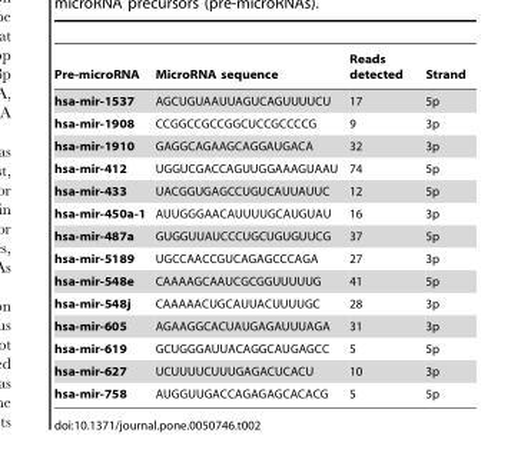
<table><thead><tr><td>Pre-microRNA</td><td>MicroRNA sequence</td><td>Reads detected</td><td>Strand</td></tr></thead><tbody><tr><td>hsa-mir-1537</td><td>AGCUGUAAUUAGUCAGUUUUCU</td><td>17</td><td>5p</td></tr><tr><td>hsa-mir-1908</td><td>CCGGCCGCCGGCUCCGCCCCG</td><td>9</td><td>3p</td></tr><tr><td>hsa-mir-1910</td><td>GAGGCAGAAGCAGGAUGACA</td><td>32</td><td>3p</td></tr><tr><td>hsa-mir-412</td><td>UGGUCGACCAGUUGGAAAGUAAU</td><td>74</td><td>5p</td></tr><tr><td>hsa-mir-433</td><td>UACGGUGAGCCUGUCAUUAUUC</td><td>12</td><td>5p</td></tr><tr><td>hsa-mir-450a-1</td><td>AUUGGGAACAUUUUGCAUGUAU</td><td>16</td><td>3p</td></tr><tr><td>hsa-mir-487a</td><td>GUGGUUAUCCCUGCUGUGUUCG</td><td>37</td><td>5p</td></tr><tr><td>hsa-mir-5189</td><td>UGCCAACCGUCAGAGCCCAGA</td><td>27</td><td>3p</td></tr><tr><td>hsa-mir-548e</td><td>CAAAAGCAAUCGCGGUUUUUG</td><td>41</td><td>5p</td></tr><tr><td>hsa-mir-548j</td><td>CAAAAACUGCAUUACUUUUGC</td><td>28</td><td>3p</td></tr><tr><td>hsa-mir-605</td><td>AGAAGGCACUAUGAGAUUUAGA</td><td>31</td><td>3p</td></tr><tr><td>hsa-mir-619</td><td>GCUGGGAUUACAGGCAUGAGCC</td><td>5</td><td>5p</td></tr><tr><td>hsa-mir-627</td><td>UCUUUUCUUUGAGACUCACU</td><td>10</td><td>3p</td></tr><tr><td>hsa-mir-758</td><td>AUGGUUGACCAGAGAGCACACG</td><td>5</td><td>5p</td></tr></tbody></table>